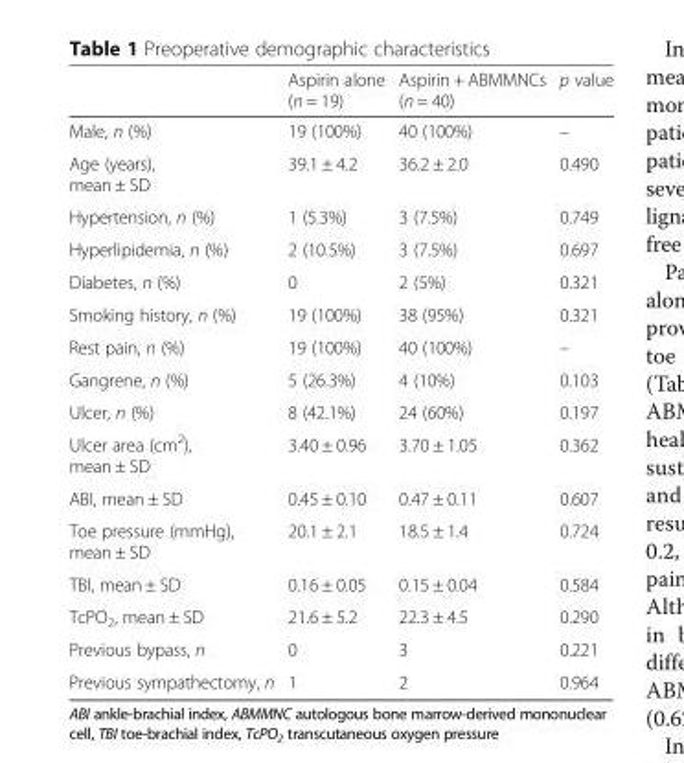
<table><thead><tr><td></td><td>Aspirin alone (n = 19)</td><td>Aspirin + ABMMNCs (n = 40)</td><td>p value</td></tr></thead><tbody><tr><td>Male, n (%)</td><td>19 (100%)</td><td>40 (100%)</td><td>–</td></tr><tr><td>Age (years), mean ± SD</td><td>39.1 ± 4.2</td><td>36.2 ± 2.0</td><td>0.490</td></tr><tr><td>Hypertension, n (%)</td><td>1 (5.3%)</td><td>3 (7.5%)</td><td>0.749</td></tr><tr><td>Hyperlipidemia, n (%)</td><td>2 (10.5%)</td><td>3 (7.5%)</td><td>0.697</td></tr><tr><td>Diabetes, n (%)</td><td>0</td><td>2 (5%)</td><td>0.321</td></tr><tr><td>Smoking history, n (%)</td><td>19 (100%)</td><td>38 (95%)</td><td>0.321</td></tr><tr><td>Rest pain, n (%)</td><td>19 (100%)</td><td>40 (100%)</td><td>–</td></tr><tr><td>Gangrene, n (%)</td><td>5 (26.3%)</td><td>4 (10%)</td><td>0.103</td></tr><tr><td>Ulcer, n (%)</td><td>8 (42.1%)</td><td>24 (60%)</td><td>0.197</td></tr><tr><td>Ulcer area (cm<sup>2</sup>), mean ± SD</td><td>3.40 ± 0.96</td><td>3.70 ± 1.05</td><td>0.362</td></tr><tr><td>ABI, mean ± SD</td><td>0.45 ± 0.10</td><td>0.47 ± 0.11</td><td>0.607</td></tr><tr><td>Toe pressure (mmHg), mean ± SD</td><td>20.1 ± 2.1</td><td>18.5 ± 1.4</td><td>0.724</td></tr><tr><td>TBI, mean ± SD</td><td>0.16 ± 0.05</td><td>0.15 ± 0.04</td><td>0.584</td></tr><tr><td>TcPO<sub>2</sub>, mean ± SD</td><td>21.6 ± 5.2</td><td>22.3 ± 4.5</td><td>0.290</td></tr><tr><td>Previous bypass, n</td><td>0</td><td>3</td><td>0.221</td></tr><tr><td>Previous sympathectomy, n</td><td>1</td><td>2</td><td>0.964</td></tr></tbody></table>